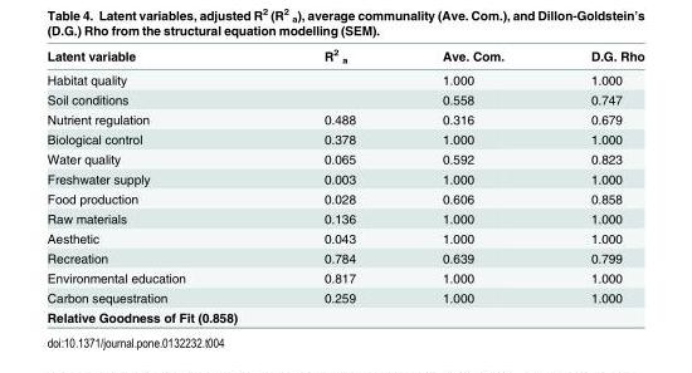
<table><thead><tr><td>Latent variable</td><td>R<sup>2</sup> <sub>a</sub></td><td>Ave. Com.</td><td>D.G. Rho</td></tr></thead><tbody><tr><td>Habitat quality</td><td></td><td>1.000</td><td>1.000</td></tr><tr><td>Soil conditions</td><td></td><td>0.558</td><td>0.747</td></tr><tr><td>Nutrient regulation</td><td>0.488</td><td>0.316</td><td>0.679</td></tr><tr><td>Biological control</td><td>0.378</td><td>1.000</td><td>1.000</td></tr><tr><td>Water quality</td><td>0.065</td><td>0.592</td><td>0.823</td></tr><tr><td>Freshwater supply</td><td>0.003</td><td>1.000</td><td>1.000</td></tr><tr><td>Food production</td><td>0.028</td><td>0.606</td><td>0.858</td></tr><tr><td>Raw materials</td><td>0.136</td><td>1.000</td><td>1.000</td></tr><tr><td>Aesthetic</td><td>0.043</td><td>1.000</td><td>1.000</td></tr><tr><td>Recreation</td><td>0.784</td><td>0.639</td><td>0.799</td></tr><tr><td>Environmental education</td><td>0.817</td><td>1.000</td><td>1.000</td></tr><tr><td>Carbon sequestration</td><td>0.259</td><td>1.000</td><td>1.000</td></tr><tr><td>Relative Goodness of Fit (0.858)</td><td></td><td></td><td></td></tr></tbody></table>